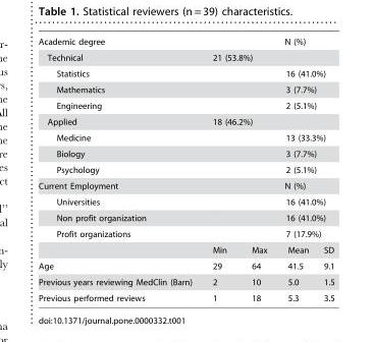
<table><tbody><tr><td>Academic degree</td><td colspan="4">N (%)</td></tr><tr><td>Technical</td><td colspan="4">21 (53.8%)</td></tr><tr><td>Statistics</td><td colspan="4">16 (41.0%)</td></tr><tr><td>Mathematics</td><td colspan="4">3 (7.7%)</td></tr><tr><td>Engineering</td><td colspan="4">2 (5.1%)</td></tr><tr><td>Applied</td><td colspan="4">18 (46.2%)</td></tr><tr><td>Medicine</td><td colspan="4">13 (33.3%)</td></tr><tr><td>Biology</td><td colspan="4">3 (7.7%)</td></tr><tr><td>Psychology</td><td colspan="4">2 (5.1%)</td></tr><tr><td>Current Employment</td><td colspan="4">N (%)</td></tr><tr><td>Universities</td><td colspan="4">16 (41.0%)</td></tr><tr><td>Non profit organization</td><td colspan="4">16 (41.0%)</td></tr><tr><td rowspan="2">Profit organizations</td><td colspan="4">7 (17.9%)</td></tr><tr><td>Min</td><td>Max</td><td>Mean</td><td>SD</td></tr><tr><td>Age</td><td>29</td><td>64</td><td>41.5</td><td>9.1</td></tr><tr><td>Previous years reviewing MedClin (Barn)</td><td>2</td><td>10</td><td>5.0</td><td>1.5</td></tr><tr><td>Previous performed reviews</td><td>1</td><td>18</td><td>5.3</td><td>3.5</td></tr></tbody></table>